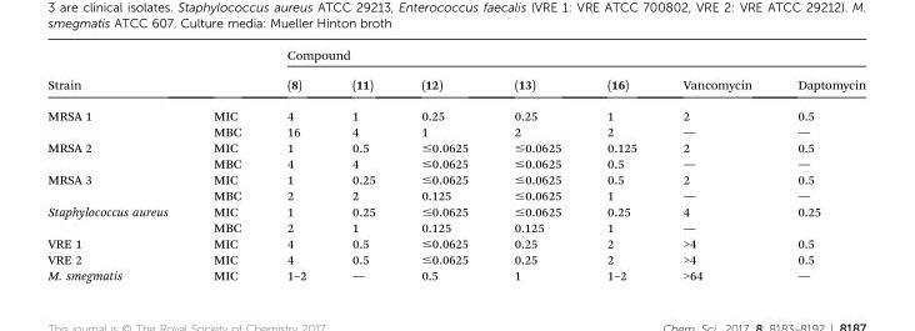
<table><thead><tr><td rowspan="2">Strain</td><td rowspan="2"></td><td colspan="7">Compound</td></tr><tr><td>(8)</td><td>(11)</td><td>(12)</td><td>(13)</td><td>(16)</td><td>Vancomycin</td><td>Daptomycin</td></tr></thead><tbody><tr><td rowspan="2">MRSA 1</td><td>MIC</td><td>4</td><td>1</td><td>0.25</td><td>0.25</td><td>1</td><td>2</td><td>0.5</td></tr><tr><td>MBC</td><td>16</td><td>4</td><td>1</td><td>2</td><td>2</td><td>—</td><td>—</td></tr><tr><td rowspan="2">MRSA 2</td><td>MIC</td><td>1</td><td>0.5</td><td>≤0.0625</td><td>≤0.0625</td><td>0.125</td><td>2</td><td>0.5</td></tr><tr><td>MBC</td><td>4</td><td>4</td><td>≤0.0625</td><td>≤0.0625</td><td>0.5</td><td>—</td><td>—</td></tr><tr><td rowspan="2">MRSA 3</td><td>MIC</td><td>1</td><td>0.25</td><td>≤0.0625</td><td>≤0.0625</td><td>0.5</td><td>2</td><td>0.5</td></tr><tr><td>MBC</td><td>2</td><td>2</td><td>0.125</td><td>≤0.0625</td><td>1</td><td>—</td><td>—</td></tr><tr><td rowspan="2">Staphylococcus aureus</td><td>MIC</td><td>1</td><td>0.25</td><td>≤0.0625</td><td>≤0.0625</td><td>0.25</td><td>4</td><td>0.25</td></tr><tr><td>MBC</td><td>2</td><td>1</td><td>0.125</td><td>0.125</td><td>1</td><td>—</td><td></td></tr><tr><td>VRE 1</td><td>MIC</td><td>4</td><td>0.5</td><td>≤0.0625</td><td>0.25</td><td>2</td><td>&gt;4</td><td>0.5</td></tr><tr><td>VRE 2</td><td>MIC</td><td>4</td><td>0.5</td><td>≤0.0625</td><td>0.25</td><td>2</td><td>&gt;4</td><td>0.5</td></tr><tr><td>M. smegmatis</td><td>MIC</td><td>1–2</td><td>—</td><td>0.5</td><td>1</td><td>1–2</td><td>&gt;64</td><td>—</td></tr></tbody></table>